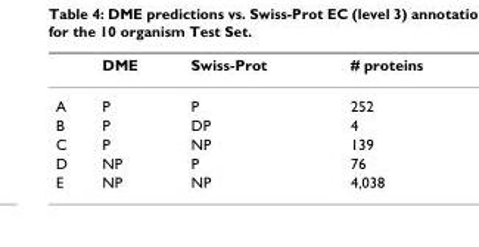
<table><thead><tr><td></td><td>DME</td><td>Swiss-Prot</td><td># proteins</td></tr></thead><tbody><tr><td>A</td><td>P</td><td>P</td><td>252</td></tr><tr><td>B</td><td>P</td><td>DP</td><td>4</td></tr><tr><td>C</td><td>P</td><td>NP</td><td>139</td></tr><tr><td>D</td><td>NP</td><td>P</td><td>76</td></tr><tr><td>E</td><td>NP</td><td>NP</td><td>4,038</td></tr></tbody></table>